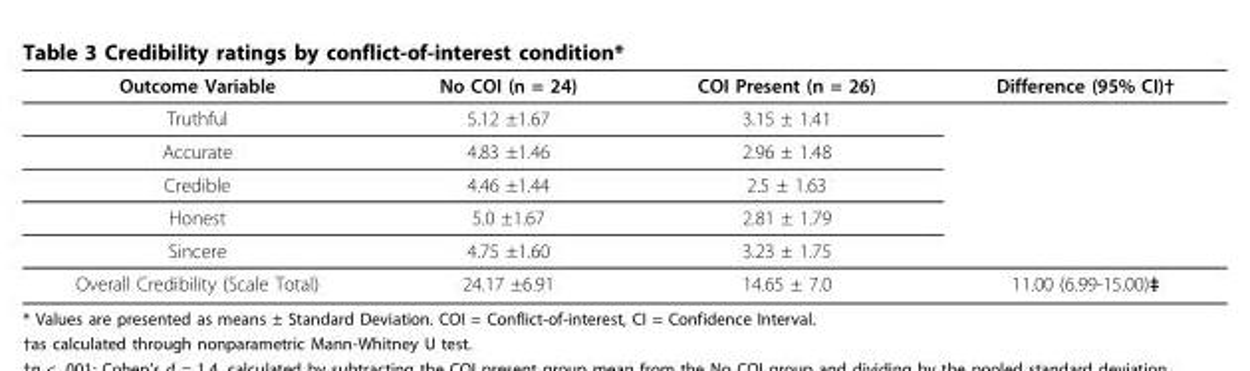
<table><thead><tr><td>Outcome Variable</td><td>No COI (n = 24)</td><td>COI Present (n = 26)</td><td>Difference (95% CI)†</td></tr></thead><tbody><tr><td>Truthful</td><td>5.12 ±1.67</td><td>3.15 ± 1.41</td><td></td></tr><tr><td>Accurate</td><td>4.83 ±1.46</td><td>2.96 ± 1.48</td><td></td></tr><tr><td>Credible</td><td>4.46 ±1.44</td><td>2.5 ± 1.63</td><td></td></tr><tr><td>Honest</td><td>5.0 ±1.67</td><td>2.81 ± 1.79</td><td></td></tr><tr><td>Sincere</td><td>4.75 ±1.60</td><td>3.23 ± 1.75</td><td></td></tr><tr><td>Overall Credibility (Scale Total)</td><td>24.17 ±6.91</td><td>14.65 ± 7.0</td><td>11.00 (6.99-15.00)‡</td></tr></tbody></table>